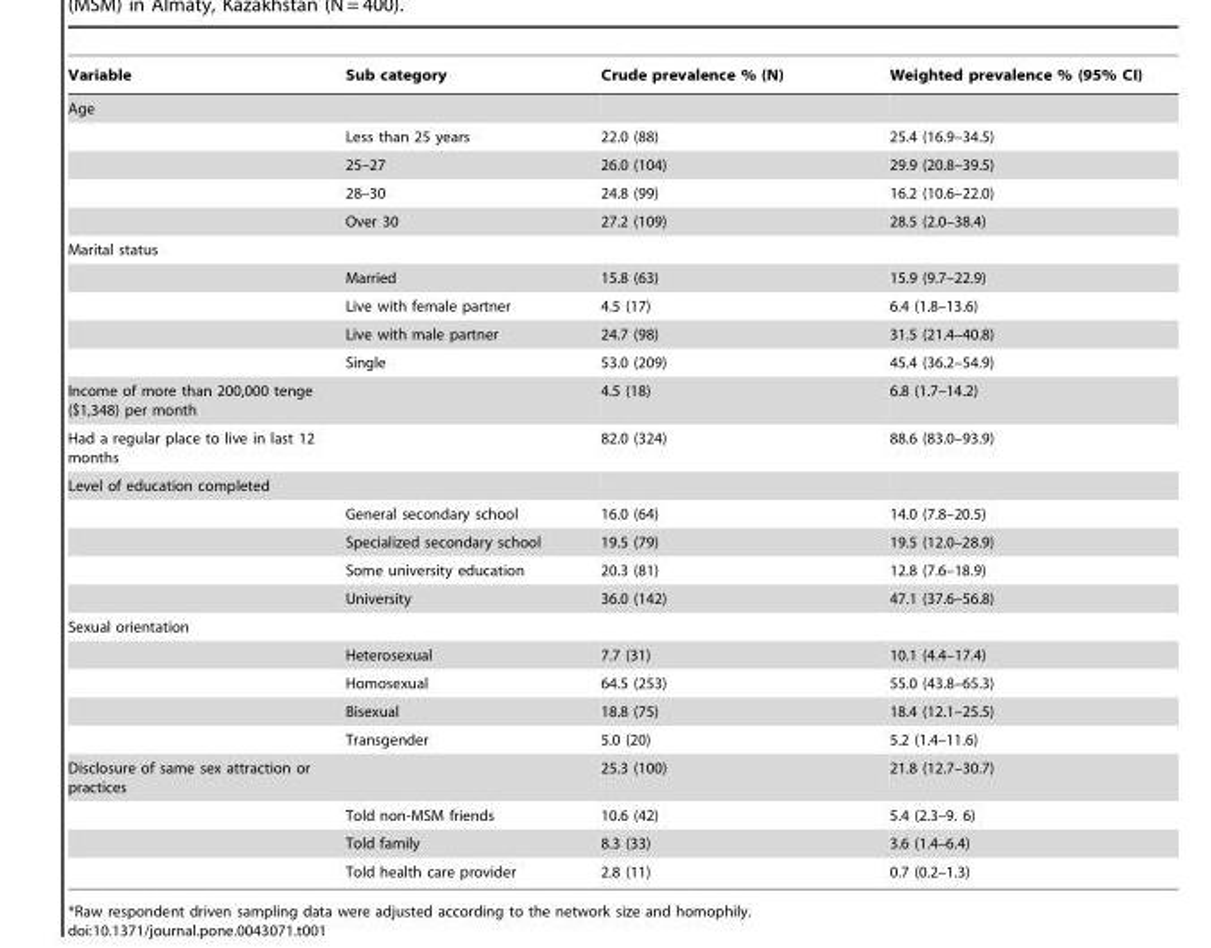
<table><thead><tr><td>Variable</td><td>Sub category</td><td>Crude prevalence % (N)</td><td>Weighted prevalence % (95% CI)</td></tr></thead><tbody><tr><td colspan="4">Age</td></tr><tr><td></td><td>Less than 25 years</td><td>22.0 (88)</td><td>25.4 (16.9–34.5)</td></tr><tr><td></td><td>25–27</td><td>26.0 (104)</td><td>29.9 (20.8–39.5)</td></tr><tr><td></td><td>28–30</td><td>24.8 (99)</td><td>16.2 (10.6–22.0)</td></tr><tr><td></td><td>Over 30</td><td>27.2 (109)</td><td>28.5 (2.0–38.4)</td></tr><tr><td colspan="4">Marital status</td></tr><tr><td></td><td>Married</td><td>15.8 (63)</td><td>15.9 (9.7–22.9)</td></tr><tr><td></td><td>Live with female partner</td><td>4.5 (17)</td><td>6.4 (1.8–13.6)</td></tr><tr><td></td><td>Live with male partner</td><td>24.7 (98)</td><td>31.5 (21.4–40.8)</td></tr><tr><td></td><td>Single</td><td>53.0 (209)</td><td>45.4 (36.2–54.9)</td></tr><tr><td>Income of more than 200,000 tenge ($1,348) per month</td><td></td><td>4.5 (18)</td><td>6.8 (1.7–14.2)</td></tr><tr><td>Had a regular place to live in last 12 months</td><td></td><td>82.0 (324)</td><td>88.6 (83.0–93.9)</td></tr><tr><td colspan="4">Level of education completed</td></tr><tr><td></td><td>General secondary school</td><td>16.0 (64)</td><td>14.0 (7.8–20.5)</td></tr><tr><td></td><td>Specialized secondary school</td><td>19.5 (79)</td><td>19.5 (12.0–28.9)</td></tr><tr><td></td><td>Some university education</td><td>20.3 (81)</td><td>12.8 (7.6–18.9)</td></tr><tr><td></td><td>University</td><td>36.0 (142)</td><td>47.1 (37.6–56.8)</td></tr><tr><td colspan="4">Sexual orientation</td></tr><tr><td></td><td>Heterosexual</td><td>7.7 (31)</td><td>10.1 (4.4–17.4)</td></tr><tr><td></td><td>Homosexual</td><td>64.5 (253)</td><td>55.0 (43.8–65.3)</td></tr><tr><td></td><td>Bisexual</td><td>18.8 (75)</td><td>18.4 (12.1–25.5)</td></tr><tr><td></td><td>Transgender</td><td>5.0 (20)</td><td>5.2 (1.4–11.6)</td></tr><tr><td rowspan="4">Disclosure of same sex attraction or practices</td><td></td><td>25.3 (100)</td><td>21.8 (12.7–30.7)</td></tr><tr><td>Told non-MSM friends</td><td>10.6 (42)</td><td>5.4 (2.3–9. 6)</td></tr><tr><td>Told family</td><td>8.3 (33)</td><td>3.6 (1.4–6.4)</td></tr><tr><td>Told health care provider</td><td>2.8 (11)</td><td>0.7 (0.2–1.3)</td></tr></tbody></table>